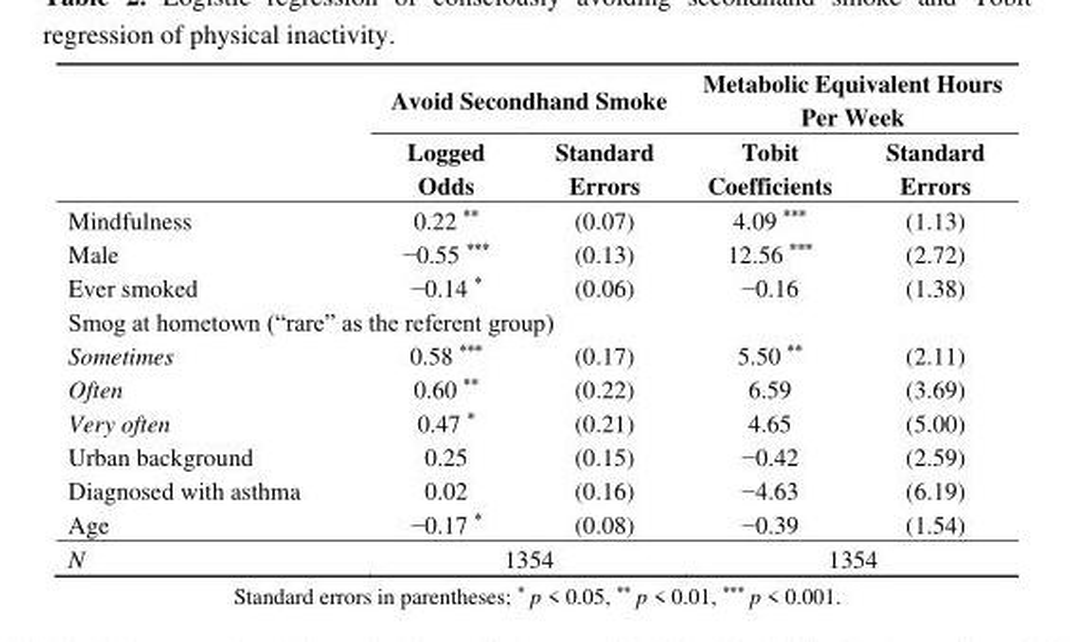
<table><thead><tr><td rowspan="2"></td><td colspan="2">Avoid Secondhand Smoke</td><td colspan="2">Metabolic Equivalent Hours Per Week</td></tr><tr><td>Logged Odds</td><td>Standard Errors</td><td>Tobit Coefficients</td><td>Standard Errors</td></tr></thead><tbody><tr><td>Mindfulness</td><td>0.22 **</td><td>(0.07)</td><td>4.09 ***</td><td>(1.13)</td></tr><tr><td>Male</td><td>−0.55 ***</td><td>(0.13)</td><td>12.56 ***</td><td>(2.72)</td></tr><tr><td>Ever smoked</td><td>−0.14 *</td><td>(0.06)</td><td>−0.16</td><td>(1.38)</td></tr><tr><td colspan="5">Smog at hometown (“rare” as the referent group)</td></tr><tr><td>Sometimes</td><td>0.58 ***</td><td>(0.17)</td><td>5.50 **</td><td>(2.11)</td></tr><tr><td>Often</td><td>0.60 **</td><td>(0.22)</td><td>6.59</td><td>(3.69)</td></tr><tr><td>Very often</td><td>0.47 *</td><td>(0.21)</td><td>4.65</td><td>(5.00)</td></tr><tr><td>Urban background</td><td>0.25</td><td>(0.15)</td><td>−0.42</td><td>(2.59)</td></tr><tr><td>Diagnosed with asthma</td><td>0.02</td><td>(0.16)</td><td>−4.63</td><td>(6.19)</td></tr><tr><td>Age</td><td>−0.17 *</td><td>(0.08)</td><td>−0.39</td><td>(1.54)</td></tr><tr><td>N</td><td colspan="2">1354</td><td colspan="2">1354</td></tr></tbody></table>